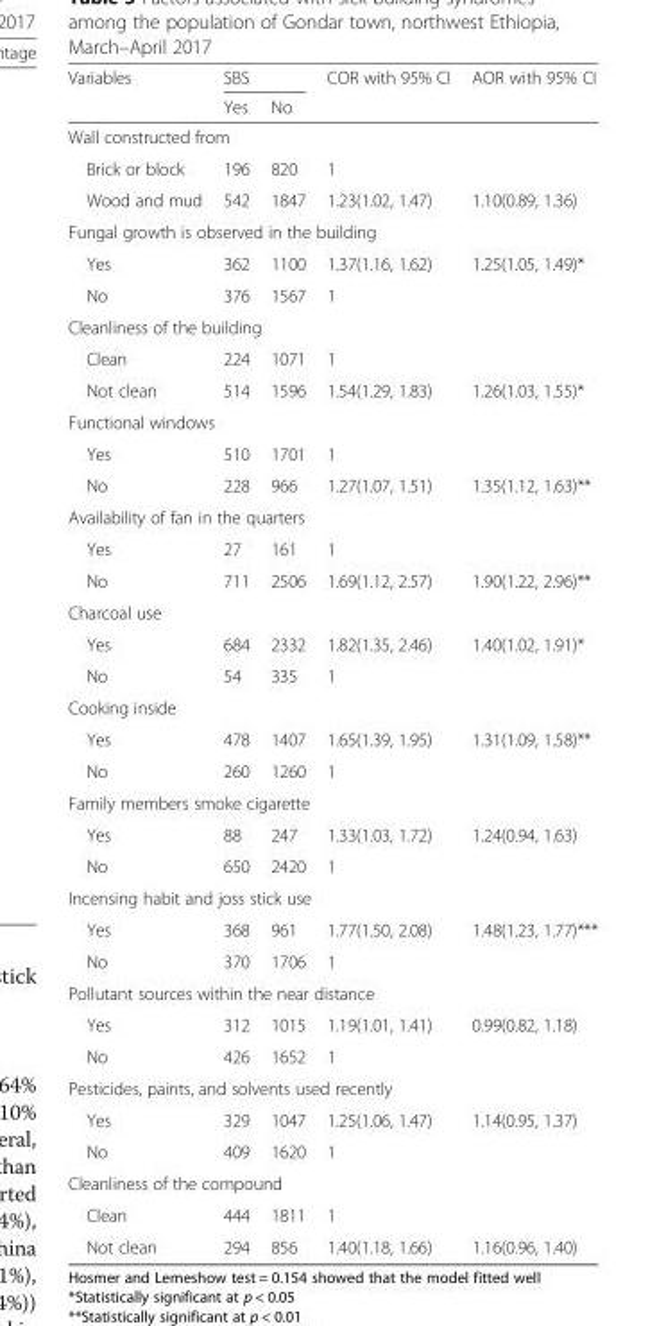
<table><thead><tr><td rowspan="2">Variables</td><td colspan="2">SBS</td><td rowspan="2">COR with 95% CI</td><td rowspan="2">AOR with 95% CI</td></tr><tr><td>Yes</td><td>No</td></tr></thead><tbody><tr><td colspan="5">Wall constructed from</td></tr><tr><td>Brick or block</td><td>196</td><td>820</td><td>1</td><td></td></tr><tr><td>Wood and mud</td><td>542</td><td>1847</td><td>1.23(1.02, 1.47)</td><td>1.10(0.89, 1.36)</td></tr><tr><td colspan="5">Fungal growth is observed in the building</td></tr><tr><td>Yes</td><td>362</td><td>1100</td><td>1.37(1.16, 1.62)</td><td>1.25(1.05, 1.49)*</td></tr><tr><td>No</td><td>376</td><td>1567</td><td>1</td><td></td></tr><tr><td colspan="5">Cleanliness of the building</td></tr><tr><td>Clean</td><td>224</td><td>1071</td><td>1</td><td></td></tr><tr><td>Not clean</td><td>514</td><td>1596</td><td>1.54(1.29, 1.83)</td><td>1.26(1.03, 1.55)*</td></tr><tr><td colspan="5">Functional windows</td></tr><tr><td>Yes</td><td>510</td><td>1701</td><td>1</td><td></td></tr><tr><td>No</td><td>228</td><td>966</td><td>1.27(1.07, 1.51)</td><td>1.35(1.12, 1.63)**</td></tr><tr><td colspan="5">Availability of fan in the quarters</td></tr><tr><td>Yes</td><td>27</td><td>161</td><td>1</td><td></td></tr><tr><td>No</td><td>711</td><td>2506</td><td>1.69(1.12, 2.57)</td><td>1.90(1.22, 2.96)**</td></tr><tr><td colspan="5">Charcoal use</td></tr><tr><td>Yes</td><td>684</td><td>2332</td><td>1.82(1.35, 2.46)</td><td>1.40(1.02, 1.91)*</td></tr><tr><td>No</td><td>54</td><td>335</td><td>1</td><td></td></tr><tr><td colspan="5">Cooking inside</td></tr><tr><td>Yes</td><td>478</td><td>1407</td><td>1.65(1.39, 1.95)</td><td>1.31(1.09, 1.58)**</td></tr><tr><td>No</td><td>260</td><td>1260</td><td>1</td><td></td></tr><tr><td colspan="5">Family members smoke cigarette</td></tr><tr><td>Yes</td><td>88</td><td>247</td><td>1.33(1.03, 1.72)</td><td>1.24(0.94, 1.63)</td></tr><tr><td>No</td><td>650</td><td>2420</td><td>1</td><td></td></tr><tr><td colspan="5">Incensing habit and joss stick use</td></tr><tr><td>Yes</td><td>368</td><td>961</td><td>1.77(1.50, 2.08)</td><td>1.48(1.23, 1.77)***</td></tr><tr><td>No</td><td>370</td><td>1706</td><td>1</td><td></td></tr><tr><td colspan="5">Pollutant sources within the near distance</td></tr><tr><td>Yes</td><td>312</td><td>1015</td><td>1.19(1.01, 1.41)</td><td>0.99(0.82, 1.18)</td></tr><tr><td>No</td><td>426</td><td>1652</td><td>1</td><td></td></tr><tr><td colspan="5">Pesticides, paints, and solvents used recently</td></tr><tr><td>Yes</td><td>329</td><td>1047</td><td>1.25(1.06, 1.47)</td><td>1.14(0.95, 1.37)</td></tr><tr><td>No</td><td>409</td><td>1620</td><td>1</td><td></td></tr><tr><td colspan="5">Cleanliness of the compound</td></tr><tr><td>Clean</td><td>444</td><td>1811</td><td>1</td><td></td></tr><tr><td>Not clean</td><td>294</td><td>856</td><td>1.40(1.18, 1.66)</td><td>1.16(0.96, 1.40)</td></tr></tbody></table>